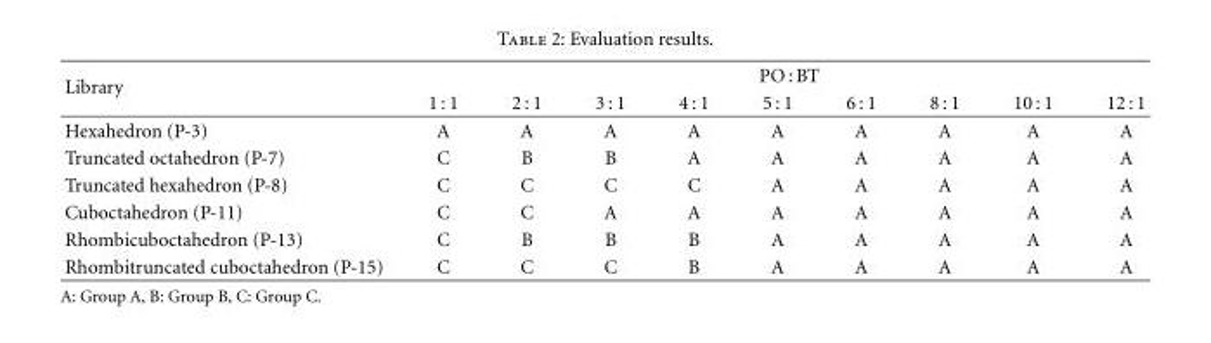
<table><thead><tr><td rowspan="2">Library</td><td colspan="9">PO : BT</td></tr><tr><td>1 : 1</td><td>2 : 1</td><td>3 : 1</td><td>4 : 1</td><td>5 : 1</td><td>6 : 1</td><td>8 : 1</td><td>10 : 1</td><td>12 : 1</td></tr></thead><tbody><tr><td>Hexahedron (P-3)</td><td>A</td><td>A</td><td>A</td><td>A</td><td>A</td><td>A</td><td>A</td><td>A</td><td>A</td></tr><tr><td>Truncated octahedron (P-7)</td><td>C</td><td>B</td><td>B</td><td>A</td><td>A</td><td>A</td><td>A</td><td>A</td><td>A</td></tr><tr><td>Truncated hexahedron (P-8)</td><td>C</td><td>C</td><td>C</td><td>C</td><td>A</td><td>A</td><td>A</td><td>A</td><td>A</td></tr><tr><td>Cuboctahedron (P-11)</td><td>C</td><td>C</td><td>A</td><td>A</td><td>A</td><td>A</td><td>A</td><td>A</td><td>A</td></tr><tr><td>Rhombicuboctahedron (P-13)</td><td>C</td><td>B</td><td>B</td><td>B</td><td>A</td><td>A</td><td>A</td><td>A</td><td>A</td></tr><tr><td>Rhombitruncated cuboctahedron (P-15)</td><td>C</td><td>C</td><td>C</td><td>B</td><td>A</td><td>A</td><td>A</td><td>A</td><td>A</td></tr></tbody></table>